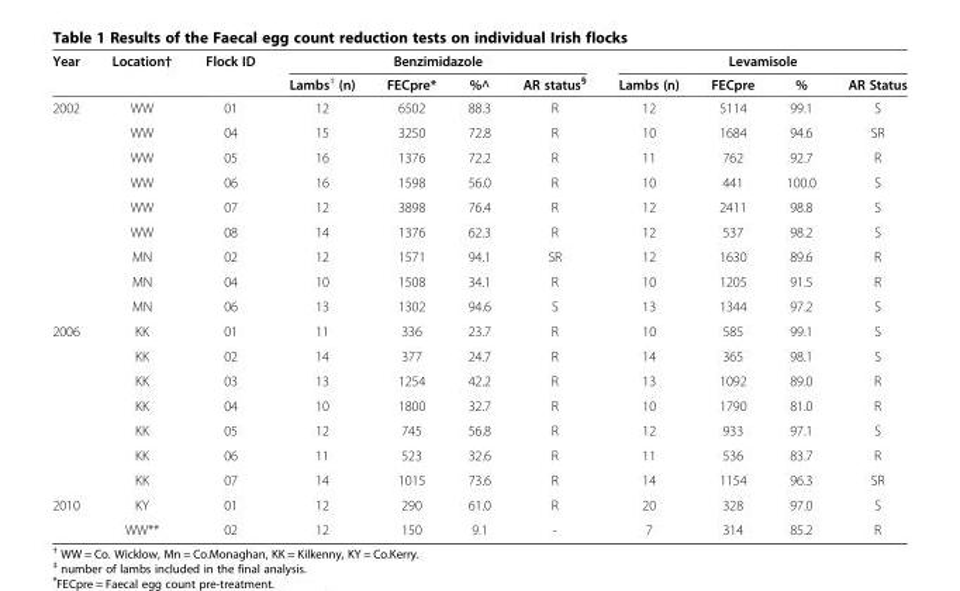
<table><thead><tr><td rowspan="2">Year</td><td rowspan="2">Location†</td><td rowspan="2">Flock ID</td><td colspan="4">Benzimidazole</td><td colspan="4">Levamisole</td></tr><tr><td>Lambs<sup>‡</sup> (n)</td><td>FECpre*</td><td>%^</td><td>AR status<sup>§</sup></td><td>Lambs (n)</td><td>FECpre</td><td>%</td><td>AR Status</td></tr></thead><tbody><tr><td rowspan="9">2002</td><td>WW</td><td>01</td><td>12</td><td>6502</td><td>88.3</td><td>R</td><td>12</td><td>5114</td><td>99.1</td><td>S</td></tr><tr><td>WW</td><td>04</td><td>15</td><td>3250</td><td>72.8</td><td>R</td><td>10</td><td>1684</td><td>94.6</td><td>SR</td></tr><tr><td>WW</td><td>05</td><td>16</td><td>1376</td><td>72.2</td><td>R</td><td>11</td><td>762</td><td>92.7</td><td>R</td></tr><tr><td>WW</td><td>06</td><td>16</td><td>1598</td><td>56.0</td><td>R</td><td>10</td><td>441</td><td>100.0</td><td>S</td></tr><tr><td>WW</td><td>07</td><td>12</td><td>3898</td><td>76.4</td><td>R</td><td>12</td><td>2411</td><td>98.8</td><td>S</td></tr><tr><td>WW</td><td>08</td><td>14</td><td>1376</td><td>62.3</td><td>R</td><td>12</td><td>537</td><td>98.2</td><td>S</td></tr><tr><td>MN</td><td>02</td><td>12</td><td>1571</td><td>94.1</td><td>SR</td><td>12</td><td>1630</td><td>89.6</td><td>R</td></tr><tr><td>MN</td><td>04</td><td>10</td><td>1508</td><td>34.1</td><td>R</td><td>10</td><td>1205</td><td>91.5</td><td>R</td></tr><tr><td>MN</td><td>06</td><td>13</td><td>1302</td><td>94.6</td><td>S</td><td>13</td><td>1344</td><td>97.2</td><td>S</td></tr><tr><td rowspan="7">2006</td><td>KK</td><td>01</td><td>11</td><td>336</td><td>23.7</td><td>R</td><td>10</td><td>585</td><td>99.1</td><td>S</td></tr><tr><td>KK</td><td>02</td><td>14</td><td>377</td><td>24.7</td><td>R</td><td>14</td><td>365</td><td>98.1</td><td>S</td></tr><tr><td>KK</td><td>03</td><td>13</td><td>1254</td><td>42.2</td><td>R</td><td>13</td><td>1092</td><td>89.0</td><td>R</td></tr><tr><td>KK</td><td>04</td><td>10</td><td>1800</td><td>32.7</td><td>R</td><td>10</td><td>1790</td><td>81.0</td><td>R</td></tr><tr><td>KK</td><td>05</td><td>12</td><td>745</td><td>56.8</td><td>R</td><td>12</td><td>933</td><td>97.1</td><td>S</td></tr><tr><td>KK</td><td>06</td><td>11</td><td>523</td><td>32.6</td><td>R</td><td>11</td><td>536</td><td>83.7</td><td>R</td></tr><tr><td>KK</td><td>07</td><td>14</td><td>1015</td><td>73.6</td><td>R</td><td>14</td><td>1154</td><td>96.3</td><td>SR</td></tr><tr><td rowspan="2">2010</td><td>KY</td><td>01</td><td>12</td><td>290</td><td>61.0</td><td>R</td><td>20</td><td>328</td><td>97.0</td><td>S</td></tr><tr><td>WW**</td><td>02</td><td>12</td><td>150</td><td>9.1</td><td>-</td><td>7</td><td>314</td><td>85.2</td><td>R</td></tr></tbody></table>